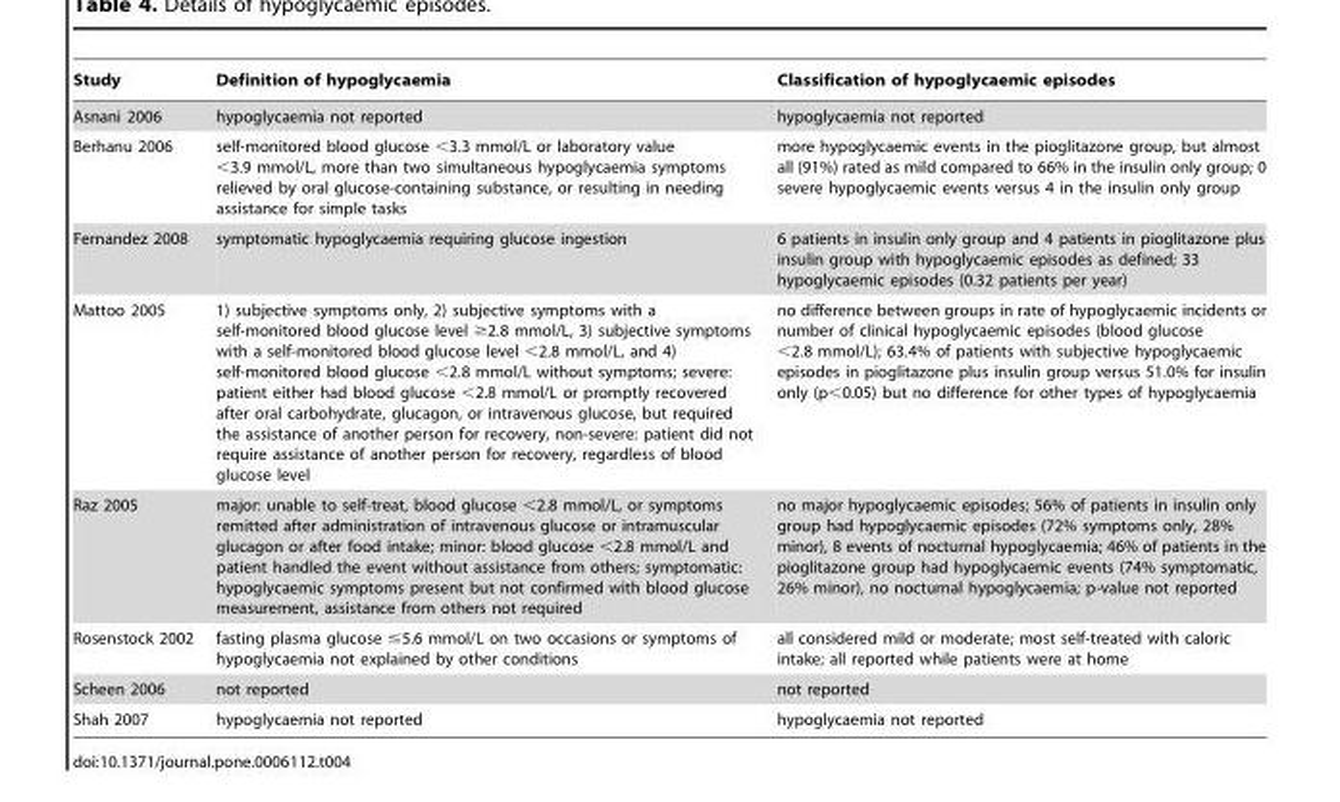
<table><thead><tr><td>Study</td><td>Definition of hypoglycaemia</td><td>Classification of hypoglycaemic episodes</td></tr></thead><tbody><tr><td>Asnani 2006</td><td>hypoglycaemia not reported</td><td>hypoglycaemia not reported</td></tr><tr><td>Berhanu 2006</td><td>self-monitored blood glucose &lt;3.3 mmol/L or laboratory value &lt;3.9 mmol/L, more than two simultaneous hypoglycaemia symptoms relieved by oral glucose-containing substance, or resulting in needing assistance for simple tasks</td><td>more hypoglycaemic events in the pioglitazone group, but almost all (91%) rated as mild compared to 66% in the insulin only group; 0 severe hypoglycaemic events versus 4 in the insulin only group</td></tr><tr><td>Fernandez 2008</td><td>symptomatic hypoglycaemia requiring glucose ingestion</td><td>6 patients in insulin only group and 4 patients in pioglitazone plus insulin group with hypoglycaemic episodes as defined; 33 hypoglycaemic episodes (0.32 patients per year)</td></tr><tr><td>Mattoo 2005</td><td>1) subjective symptoms only, 2) subjective symptoms with a self-monitored blood glucose level ≥2.8 mmol/L, 3) subjective symptoms with a self-monitored blood glucose level &lt;2.8 mmol/L, and 4) self-monitored blood glucose &lt;2.8 mmol/L without symptoms; severe: patient either had blood glucose &lt;2.8 mmol/L or promptly recovered after oral carbohydrate, glucagon, or intravenous glucose, but required the assistance of another person for recovery, non-severe: patient did not require assistance of another person for recovery, regardless of blood glucose level</td><td>no difference between groups in rate of hypoglycaemic incidents or number of clinical hypoglycaemic episodes (blood glucose &lt;2.8 mmol/L); 63.4% of patients with subjective hypoglycaemic episodes in pioglitazone plus insulin group versus 51.0% for insulin only (p&lt;0.05) but no difference for other types of hypoglycaemia</td></tr><tr><td>Raz 2005</td><td>major: unable to self-treat, blood glucose &lt;2.8 mmol/L, or symptoms remitted after administration of intravenous glucose or intramuscular glucagon or after food intake; minor: blood glucose &lt;2.8 mmol/L and patient handled the event without assistance from others; symptomatic: hypoglycaemic symptoms present but not confirmed with blood glucose measurement, assistance from others not required</td><td>no major hypoglycaemic episodes; 56% of patients in insulin only group had hypoglycaemic episodes (72% symptoms only, 28% minor), 8 events of nocturnal hypoglycaemia; 46% of patients in the pioglitazone group had hypoglycaemic events (74% symptomatic, 26% minor), no nocturnal hypoglycaemia; p-value not reported</td></tr><tr><td>Rosenstock 2002</td><td>fasting plasma glucose ≤5.6 mmol/L on two occasions or symptoms of hypoglycaemia not explained by other conditions</td><td>all considered mild or moderate; most self-treated with caloric intake; all reported while patients were at home</td></tr><tr><td>Scheen 2006</td><td>not reported</td><td>not reported</td></tr><tr><td>Shah 2007</td><td>hypoglycaemia not reported</td><td>hypoglycaemia not reported</td></tr></tbody></table>